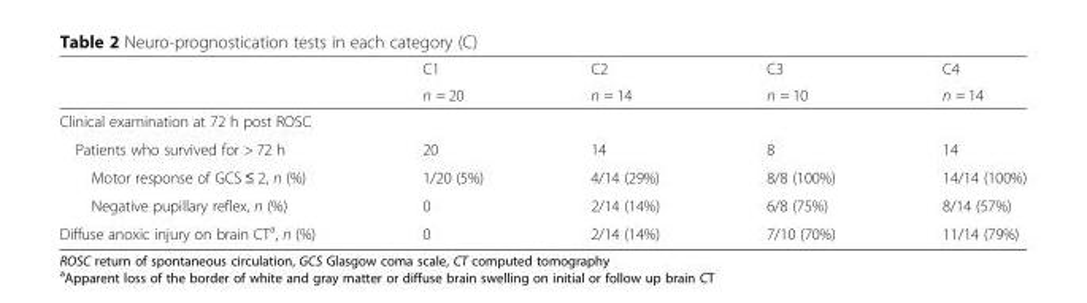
<table><thead><tr><td rowspan="2"></td><td rowspan="2">C1 n = 20</td><td rowspan="2">C2 n = 14</td><td rowspan="2">C3 n = 10</td><td rowspan="2">C4 n = 14</td></tr><tr></tr></thead><tbody><tr><td colspan="5">Clinical examination at 72 h post ROSC</td></tr><tr><td>Patients who survived for &gt; 72 h</td><td>20</td><td>14</td><td>8</td><td>14</td></tr><tr><td>Motor response of GCS ≤ 2, n (%)</td><td>1/20 (5%)</td><td>4/14 (29%)</td><td>8/8 (100%)</td><td>14/14 (100%)</td></tr><tr><td>Negative pupillary reflex, n (%)</td><td>0</td><td>2/14 (14%)</td><td>6/8 (75%)</td><td>8/14 (57%)</td></tr><tr><td>Diffuse anoxic injury on brain CT<sup>a</sup>, n (%)</td><td>0</td><td>2/14 (14%)</td><td>7/10 (70%)</td><td>11/14 (79%)</td></tr></tbody></table>